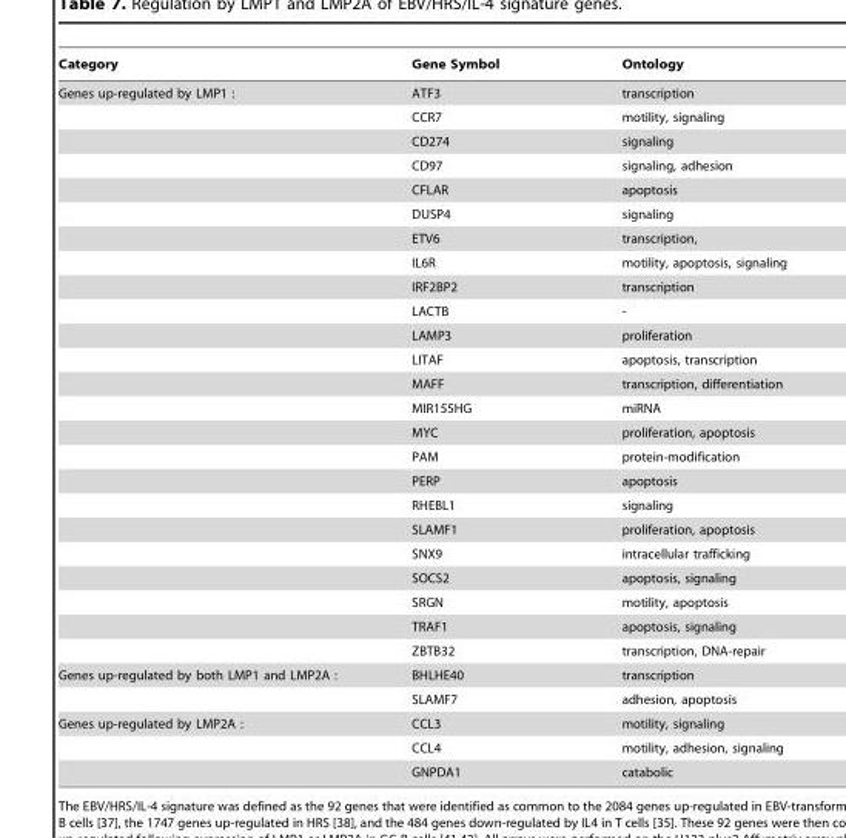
<table><thead><tr><td>Category</td><td>Gene Symbol</td><td>Ontology</td></tr></thead><tbody><tr><td rowspan="24">Genes up-regulated by LMP1 :</td><td>ATF3</td><td>transcription</td></tr><tr><td>CCR7</td><td>motility, signaling</td></tr><tr><td>CD274</td><td>signaling</td></tr><tr><td>CD97</td><td>signaling, adhesion</td></tr><tr><td>CFLAR</td><td>apoptosis</td></tr><tr><td>DUSP4</td><td>signaling</td></tr><tr><td>ETV6</td><td>transcription,</td></tr><tr><td>IL6R</td><td>motility, apoptosis, signaling</td></tr><tr><td>IRF2BP2</td><td>transcription</td></tr><tr><td>LACTB</td><td>-</td></tr><tr><td>LAMP3</td><td>proliferation</td></tr><tr><td>LITAF</td><td>apoptosis, transcription</td></tr><tr><td>MAFF</td><td>transcription, differentiation</td></tr><tr><td>MIR155HG</td><td>miRNA</td></tr><tr><td>MYC</td><td>proliferation, apoptosis</td></tr><tr><td>PAM</td><td>protein-modification</td></tr><tr><td>PERP</td><td>apoptosis</td></tr><tr><td>RHEBL1</td><td>signaling</td></tr><tr><td>SLAMF1</td><td>proliferation, apoptosis</td></tr><tr><td>SNX9</td><td>intracellular trafficking</td></tr><tr><td>SOCS2</td><td>apoptosis, signaling</td></tr><tr><td>SRGN</td><td>motility, apoptosis</td></tr><tr><td>TRAF1</td><td>apoptosis, signaling</td></tr><tr><td>ZBTB32</td><td>transcription, DNA-repair</td></tr><tr><td rowspan="2">Genes up-regulated by both LMP1 and LMP2A :</td><td>BHLHE40</td><td>transcription</td></tr><tr><td>SLAMF7</td><td>adhesion, apoptosis</td></tr><tr><td rowspan="3">Genes up-regulated by LMP2A :</td><td>CCL3</td><td>motility, signaling</td></tr><tr><td>CCL4</td><td>motility, adhesion, signaling</td></tr><tr><td>GNPDA1</td><td>catabolic</td></tr></tbody></table>